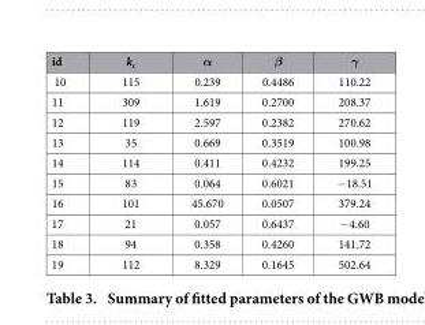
<table><thead><tr><td>id</td><td>k<sub>c</sub></td><td>α</td><td>β</td><td>γ</td></tr></thead><tbody><tr><td>10</td><td>115</td><td>0.239</td><td>0.4486</td><td>110.22</td></tr><tr><td>11</td><td>309</td><td>1.619</td><td>0.2700</td><td>208.37</td></tr><tr><td>12</td><td>119</td><td>2.597</td><td>0.2382</td><td>270.62</td></tr><tr><td>13</td><td>35</td><td>0.669</td><td>0.3519</td><td>100.98</td></tr><tr><td>14</td><td>114</td><td>0.411</td><td>0.4232</td><td>199.25</td></tr><tr><td>15</td><td>83</td><td>0.064</td><td>0.6021</td><td>− 18.51</td></tr><tr><td>16</td><td>101</td><td>45.670</td><td>0.0507</td><td>379.24</td></tr><tr><td>17</td><td>21</td><td>0.057</td><td>0.6437</td><td>− 4.60</td></tr><tr><td>18</td><td>94</td><td>0.358</td><td>0.4260</td><td>141.72</td></tr><tr><td>19</td><td>112</td><td>8.329</td><td>0.1645</td><td>502.64</td></tr></tbody></table>